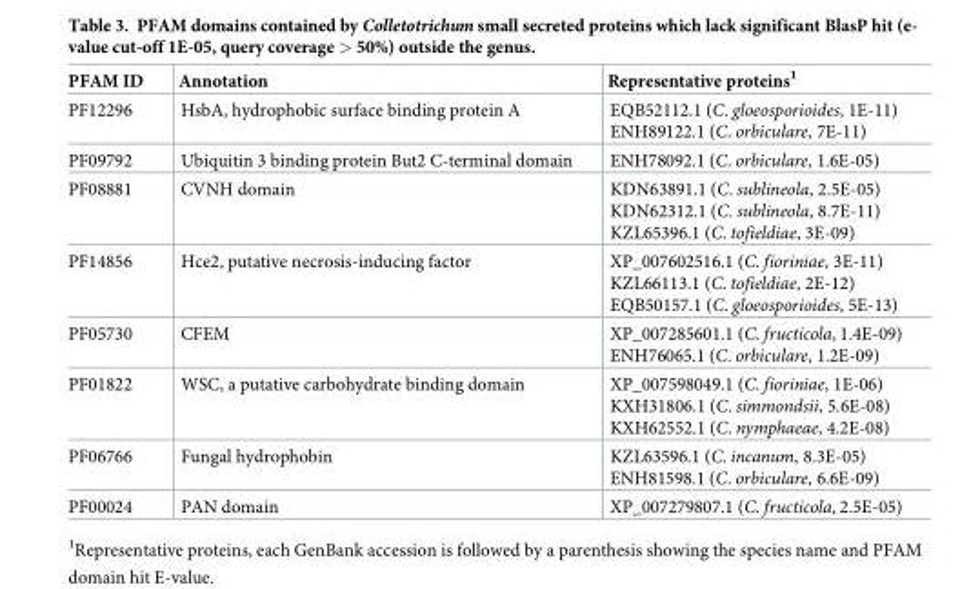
<table><thead><tr><td>PFAM ID</td><td>Annotation</td><td>Representative proteins<sup>1</sup></td></tr></thead><tbody><tr><td>PF12296</td><td>HsbA, hydrophobic surface binding protein A</td><td>EQB52112.1 (C. gloeosporioides, 1E-11) ENH89122.1 (C. orbiculare, 7E-11)</td></tr><tr><td>PF09792</td><td>Ubiquitin 3 binding protein But2 C-terminal domain</td><td>ENH78092.1 (C. orbiculare, 1.6E-05)</td></tr><tr><td>PF08881</td><td>CVNH domain</td><td>KDN63891.1 (C. sublineola, 2.5E-05) KDN62312.1 (C. sublineola, 8.7E-11) KZL65396.1 (C. tofieldiae, 3E-09)</td></tr><tr><td>PF14856</td><td>Hce2, putative necrosis-inducing factor</td><td>XP_007602516.1 (C. fioriniae, 3E-11) KZL66113.1 (C. tofieldiae, 2E-12) EQB50157.1 (C. gloeosporioides, 5E-13)</td></tr><tr><td>PF05730</td><td>CFEM</td><td>XP_007285601.1 (C. fructicola, 1.4E-09) ENH76065.1 (C. orbiculare, 1.2E-09)</td></tr><tr><td>PF01822</td><td>WSC, a putative carbohydrate binding domain</td><td>XP_007598049.1 (C. fioriniae, 1E-06) KXH31806.1 (C. simmondsii, 5.6E-08) KXH62552.1 (C. nymphaeae, 4.2E-08)</td></tr><tr><td>PF06766</td><td>Fungal hydrophobin</td><td>KZL63596.1 (C. incanum, 8.3E-05) ENH81598.1 (C. orbiculare, 6.6E-09)</td></tr><tr><td>PF00024</td><td>PAN domain</td><td>XP_007279807.1 (C. fructicola, 2.5E-05)</td></tr></tbody></table>